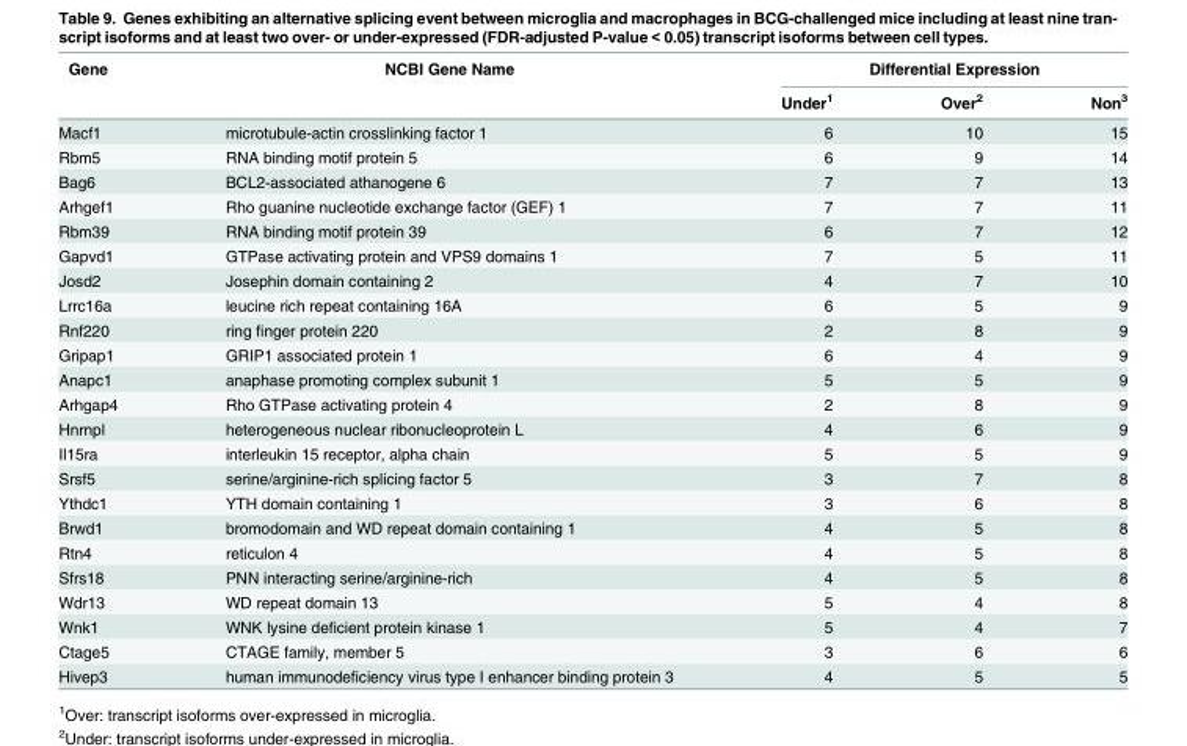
<table><thead><tr><td rowspan="2">Gene</td><td rowspan="2">NCBI Gene Name</td><td colspan="3">Differential Expression</td></tr><tr><td>Under<sup>1</sup></td><td>Over<sup>2</sup></td><td>Non<sup>3</sup></td></tr></thead><tbody><tr><td>Macf1</td><td>microtubule-actin crosslinking factor 1</td><td>6</td><td>10</td><td>15</td></tr><tr><td>Rbm5</td><td>RNA binding motif protein 5</td><td>6</td><td>9</td><td>14</td></tr><tr><td>Bag6</td><td>BCL2-associated athanogene 6</td><td>7</td><td>7</td><td>13</td></tr><tr><td>Arhgef1</td><td>Rho guanine nucleotide exchange factor (GEF) 1</td><td>7</td><td>7</td><td>11</td></tr><tr><td>Rbm39</td><td>RNA binding motif protein 39</td><td>6</td><td>7</td><td>12</td></tr><tr><td>Gapvd1</td><td>GTPase activating protein and VPS9 domains 1</td><td>7</td><td>5</td><td>11</td></tr><tr><td>Josd2</td><td>Josephin domain containing 2</td><td>4</td><td>7</td><td>10</td></tr><tr><td>Lrrc16a</td><td>leucine rich repeat containing 16A</td><td>6</td><td>5</td><td>9</td></tr><tr><td>Rnf220</td><td>ring finger protein 220</td><td>2</td><td>8</td><td>9</td></tr><tr><td>Gripap1</td><td>GRIP1 associated protein 1</td><td>6</td><td>4</td><td>9</td></tr><tr><td>Anapc1</td><td>anaphase promoting complex subunit 1</td><td>5</td><td>5</td><td>9</td></tr><tr><td>Arhgap4</td><td>Rho GTPase activating protein 4</td><td>2</td><td>8</td><td>9</td></tr><tr><td>Hnrnpl</td><td>heterogeneous nuclear ribonucleoprotein L</td><td>4</td><td>6</td><td>9</td></tr><tr><td>Il15ra</td><td>interleukin 15 receptor, alpha chain</td><td>5</td><td>5</td><td>9</td></tr><tr><td>Srsf5</td><td>serine/arginine-rich splicing factor 5</td><td>3</td><td>7</td><td>8</td></tr><tr><td>Ythdc1</td><td>YTH domain containing 1</td><td>3</td><td>6</td><td>8</td></tr><tr><td>Brwd1</td><td>bromodomain and WD repeat domain containing 1</td><td>4</td><td>5</td><td>8</td></tr><tr><td>Rtn4</td><td>reticulon 4</td><td>4</td><td>5</td><td>8</td></tr><tr><td>Sfrs18</td><td>PNN interacting serine/arginine-rich</td><td>4</td><td>5</td><td>8</td></tr><tr><td>Wdr13</td><td>WD repeat domain 13</td><td>5</td><td>4</td><td>8</td></tr><tr><td>Wnk1</td><td>WNK lysine deficient protein kinase 1</td><td>5</td><td>4</td><td>7</td></tr><tr><td>Ctage5</td><td>CTAGE family, member 5</td><td>3</td><td>6</td><td>6</td></tr><tr><td>Hivep3</td><td>human immunodeficiency virus type I enhancer binding protein 3</td><td>4</td><td>5</td><td>5</td></tr></tbody></table>